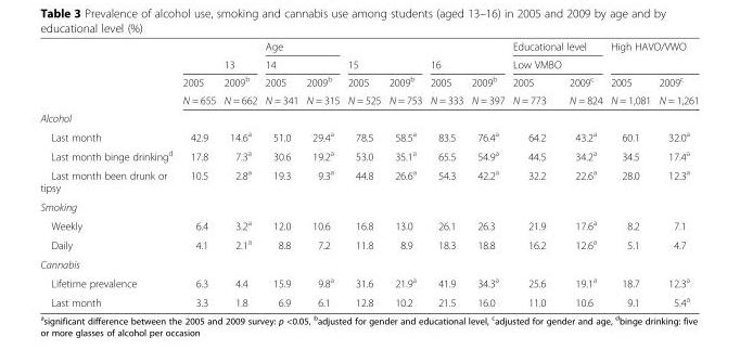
<table><thead><tr><td rowspan="4"></td><td rowspan="4">2005 N = 655</td><td rowspan="4">13 2009<sup>b</sup> N = 662</td><td rowspan="2" colspan="2">Age 14</td><td rowspan="4">15 2005 N = 525</td><td rowspan="4">2009<sup>b</sup> N = 753</td><td rowspan="4">16 2005 N = 333</td><td rowspan="4">2009<sup>b</sup> N = 397</td><td colspan="2">Educational level</td><td colspan="2">High HAVO/VWO</td></tr><tr><td rowspan="3">Low VMBO 2005 N = 773</td><td rowspan="3">2009<sup>c</sup> N = 824</td><td rowspan="3">2005 N = 1,081</td><td rowspan="3">2009<sup>c</sup> N = 1,261</td></tr><tr><td rowspan="2">2005 N = 341</td><td rowspan="2">2009<sup>b</sup> N = 315</td></tr><tr></tr></thead><tbody><tr><td colspan="13">Alcohol</td></tr><tr><td>Last month</td><td>42.9</td><td>14.6<sup>a</sup></td><td>51.0</td><td>29.4<sup>a</sup></td><td>78.5</td><td>58.5<sup>a</sup></td><td>83.5</td><td>76.4<sup>a</sup></td><td>64.2</td><td>43.2<sup>a</sup></td><td>60.1</td><td>32.0<sup>a</sup></td></tr><tr><td>Last month binge drinking<sup>d</sup></td><td>17.8</td><td>7.3<sup>a</sup></td><td>30.6</td><td>19.2<sup>a</sup></td><td>53.0</td><td>35.1<sup>a</sup></td><td>65.5</td><td>54.9<sup>a</sup></td><td>44.5</td><td>34.2<sup>a</sup></td><td>34.5</td><td>17.4<sup>a</sup></td></tr><tr><td>Last month been drunk or tipsy</td><td>10.5</td><td>2.8<sup>a</sup></td><td>19.3</td><td>9.3<sup>a</sup></td><td>44.8</td><td>26.6<sup>a</sup></td><td>54.3</td><td>42.2<sup>a</sup></td><td>32.2</td><td>22.6<sup>a</sup></td><td>28.0</td><td>12.3<sup>a</sup></td></tr><tr><td colspan="13">Smoking</td></tr><tr><td>Weekly</td><td>6.4</td><td>3.2<sup>a</sup></td><td>12.0</td><td>10.6</td><td>16.8</td><td>13.0</td><td>26.1</td><td>26.3</td><td>21.9</td><td>17.6<sup>a</sup></td><td>8.2</td><td>7.1</td></tr><tr><td>Daily</td><td>4.1</td><td>2.1<sup>a</sup></td><td>8.8</td><td>7.2</td><td>11.8</td><td>8.9</td><td>18.3</td><td>18.8</td><td>16.2</td><td>12.6<sup>a</sup></td><td>5.1</td><td>4.7</td></tr><tr><td colspan="13">Cannabis</td></tr><tr><td>Lifetime prevalence</td><td>6.3</td><td>4.4</td><td>15.9</td><td>9.8<sup>a</sup></td><td>31.6</td><td>21.9<sup>a</sup></td><td>41.9</td><td>34.3<sup>a</sup></td><td>25.6</td><td>19.1<sup>a</sup></td><td>18.7</td><td>12.3<sup>a</sup></td></tr><tr><td>Last month</td><td>3.3</td><td>1.8</td><td>6.9</td><td>6.1</td><td>12.8</td><td>10.2</td><td>21.5</td><td>16.0</td><td>11.0</td><td>10.6</td><td>9.1</td><td>5.4<sup>a</sup></td></tr></tbody></table>